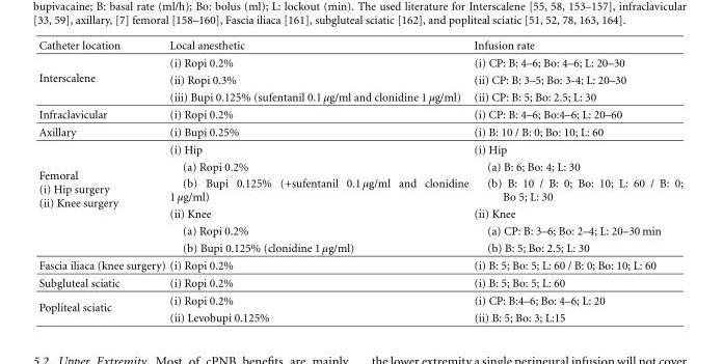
<table><thead><tr><td>Catheter location</td><td>Local anesthetic</td><td>Infusion rate</td></tr></thead><tbody><tr><td rowspan="3">Interscalene</td><td>(i) Ropi 0.2%</td><td>(i) CP: B: 4–6; Bo: 4–6; L: 20–30</td></tr><tr><td>(ii) Ropi 0.3%</td><td>(ii) CP: B: 3–5; Bo: 3-4; L: 20–30</td></tr><tr><td>(iii) Bupi 0.125% (sufentanil 0.1 µg/ml and clonidine 1 µg/ml)</td><td>(ii) CP: B: 5; Bo: 2.5; L: 30</td></tr><tr><td>Infraclavicular</td><td>(i) Ropi 0.2%</td><td>(i) CP: B: 4–6; Bo:4–6; L: 20–60</td></tr><tr><td>Axillary</td><td>(i) Bupi 0.25%</td><td>(i) B: 10 / B: 0; Bo: 10; L: 60</td></tr><tr><td rowspan="6">Femoral (i) Hip surgery (ii) Knee surgery</td><td>(i) Hip</td><td>(i) Hip</td></tr><tr><td>(a) Ropi 0.2%</td><td>(a) B: 6; Bo: 4; L: 30</td></tr><tr><td>(b) Bupi 0.125% (+sufentanil 0.1 µg/ml and clonidine 1 µg/ml)</td><td>(b) B: 10 / B: 0; Bo: 10; L: 60 / B: 0; Bo 5; L: 30</td></tr><tr><td>(ii) Knee</td><td>(ii) Knee</td></tr><tr><td>(a) Ropi 0.2%</td><td>(a) CP: B: 3–6; Bo: 2–4; L: 20–30 min</td></tr><tr><td>(b) Bupi 0.125% (clonidine 1 µg/ml)</td><td>(b) B: 5; Bo: 2.5; L: 30</td></tr><tr><td>Fascia iliaca (knee surgery)</td><td>(i) Ropi 0.2%</td><td>(i) B: 5; Bo: 5; L: 60 / B: 0; Bo: 10; L: 60</td></tr><tr><td>Subgluteal sciatic</td><td>(i) Ropi 0.2%</td><td>(i) B: 5; Bo: 5; L: 60</td></tr><tr><td rowspan="2">Popliteal sciatic</td><td>(i) Ropi 0.2%</td><td>(i) CP: B:4–6; Bo: 4–6; L: 20</td></tr><tr><td>(ii) Levobupi 0.125%</td><td>(ii) B: 5; Bo: 3; L:15</td></tr></tbody></table>